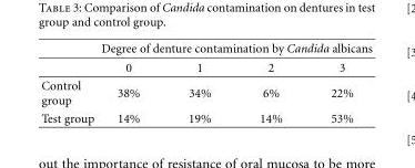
<table><thead><tr><td rowspan="2"></td><td colspan="4">Degree of denture contamination by Candida albicans</td></tr><tr><td>0</td><td>1</td><td>2</td><td>3</td></tr></thead><tbody><tr><td>Control group</td><td>38%</td><td>34%</td><td>6%</td><td>22%</td></tr><tr><td>Test group</td><td>14%</td><td>19%</td><td>14%</td><td>53%</td></tr></tbody></table>